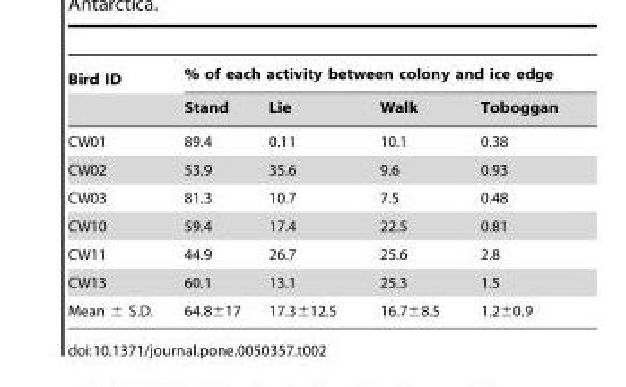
<table><thead><tr><td rowspan="2">Bird ID</td><td colspan="4">% of each activity between colony and ice edge</td></tr><tr><td>Stand</td><td>Lie</td><td>Walk</td><td>Toboggan</td></tr></thead><tbody><tr><td>CW01</td><td>89.4</td><td>0.11</td><td>10.1</td><td>0.38</td></tr><tr><td>CW02</td><td>53.9</td><td>35.6</td><td>9.6</td><td>0.93</td></tr><tr><td>CW03</td><td>81.3</td><td>10.7</td><td>7.5</td><td>0.48</td></tr><tr><td>CW10</td><td>59.4</td><td>17.4</td><td>22.5</td><td>0.81</td></tr><tr><td>CW11</td><td>44.9</td><td>26.7</td><td>25.6</td><td>2.8</td></tr><tr><td>CW13</td><td>60.1</td><td>13.1</td><td>25.3</td><td>1.5</td></tr><tr><td>Mean ± S.D.</td><td>64.8±17</td><td>17.3±12.5</td><td>16.7±8.5</td><td>1.2±0.9</td></tr></tbody></table>